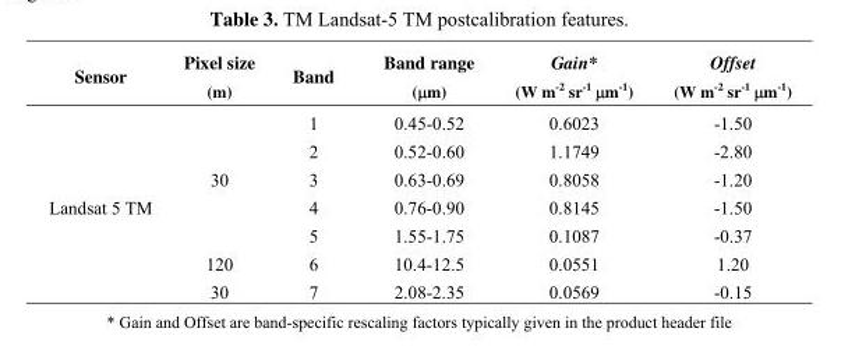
<table><thead><tr><td>Sensor</td><td>Pixel size (m)</td><td>Band</td><td>Band range (μm)</td><td>Gain* (W m<sup>-2</sup> sr<sup>-1</sup> μm<sup>-1</sup>)</td><td>Offset (W m<sup>-2</sup> sr<sup>-1</sup> μm<sup>-1</sup>)</td></tr></thead><tbody><tr><td rowspan="7">Landsat 5 TM</td><td rowspan="5">30</td><td>1</td><td>0.45-0.52</td><td>0.6023</td><td>-1.50</td></tr><tr><td>2</td><td>0.52-0.60</td><td>1.1749</td><td>-2.80</td></tr><tr><td>3</td><td>0.63-0.69</td><td>0.8058</td><td>-1.20</td></tr><tr><td>4</td><td>0.76-0.90</td><td>0.8145</td><td>-1.50</td></tr><tr><td>5</td><td>1.55-1.75</td><td>0.1087</td><td>-0.37</td></tr><tr><td>120</td><td>6</td><td>10.4-12.5</td><td>0.0551</td><td>1.20</td></tr><tr><td>30</td><td>7</td><td>2.08-2.35</td><td>0.0569</td><td>-0.15</td></tr></tbody></table>